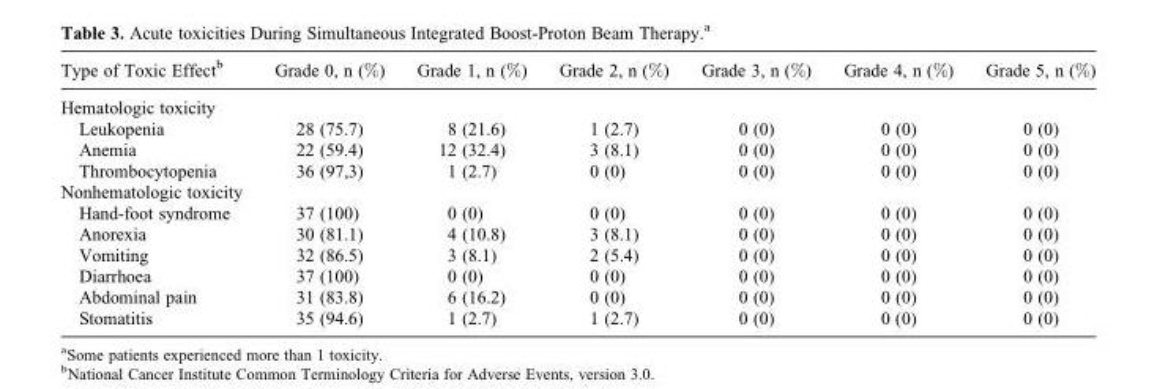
<table><thead><tr><td>Type of Toxic Effect<sup>b</sup></td><td>Grade 0, n (%)</td><td>Grade 1, n (%)</td><td>Grade 2, n (%)</td><td>Grade 3, n (%)</td><td>Grade 4, n (%)</td><td>Grade 5, n (%)</td></tr></thead><tbody><tr><td colspan="7">Hematologic toxicity</td></tr><tr><td>Leukopenia</td><td>28 (75.7)</td><td>8 (21.6)</td><td>1 (2.7)</td><td>0 (0)</td><td>0 (0)</td><td>0 (0)</td></tr><tr><td>Anemia</td><td>22 (59.4)</td><td>12 (32.4)</td><td>3 (8.1)</td><td>0 (0)</td><td>0 (0)</td><td>0 (0)</td></tr><tr><td>Thrombocytopenia</td><td>36 (97,3)</td><td>1 (2.7)</td><td>0 (0)</td><td>0 (0)</td><td>0 (0)</td><td>0 (0)</td></tr><tr><td colspan="7">Nonhematologic toxicity</td></tr><tr><td>Hand-foot syndrome</td><td>37 (100)</td><td>0 (0)</td><td>0 (0)</td><td>0 (0)</td><td>0 (0)</td><td>0 (0)</td></tr><tr><td>Anorexia</td><td>30 (81.1)</td><td>4 (10.8)</td><td>3 (8.1)</td><td>0 (0)</td><td>0 (0)</td><td>0 (0)</td></tr><tr><td>Vomiting</td><td>32 (86.5)</td><td>3 (8.1)</td><td>2 (5.4)</td><td>0 (0)</td><td>0 (0)</td><td>0 (0)</td></tr><tr><td>Diarrhoea</td><td>37 (100)</td><td>0 (0)</td><td>0 (0)</td><td>0 (0)</td><td>0 (0)</td><td>0 (0)</td></tr><tr><td>Abdominal pain</td><td>31 (83.8)</td><td>6 (16.2)</td><td>0 (0)</td><td>0 (0)</td><td>0 (0)</td><td>0 (0)</td></tr><tr><td>Stomatitis</td><td>35 (94.6)</td><td>1 (2.7)</td><td>1 (2.7)</td><td>0 (0)</td><td>0 (0)</td><td>0 (0)</td></tr></tbody></table>